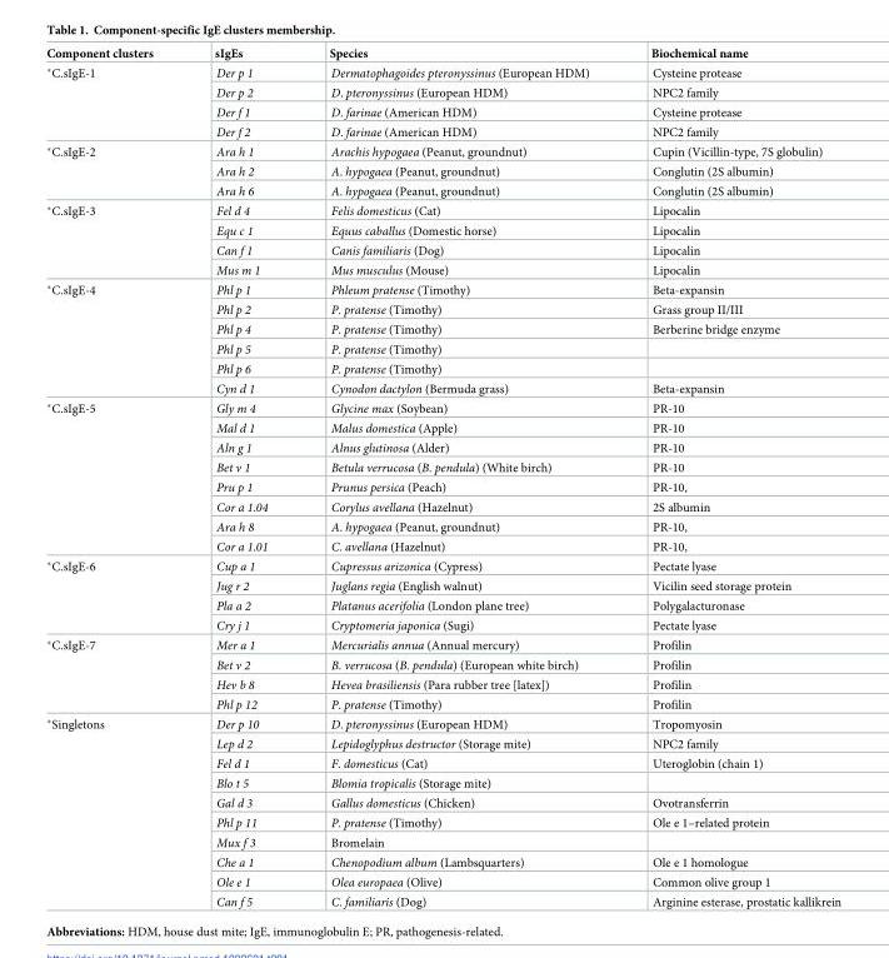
<table><thead><tr><td>Component clusters</td><td>sIgEs</td><td>Species</td><td>Biochemical name</td></tr></thead><tbody><tr><td rowspan="4">*C.sIgE-1</td><td>Der p 1</td><td>Dermatophagoides pteronyssinus (European HDM)</td><td>Cysteine protease</td></tr><tr><td>Der p 2</td><td>D. pteronyssinus (European HDM)</td><td>NPC2 family</td></tr><tr><td>Der f 1</td><td>D. farinae (American HDM)</td><td>Cysteine protease</td></tr><tr><td>Der f 2</td><td>D. farinae (American HDM)</td><td>NPC2 family</td></tr><tr><td rowspan="3">*C.sIgE-2</td><td>Ara h 1</td><td>Arachis hypogaea (Peanut, groundnut)</td><td>Cupin (Vicillin-type, 7S globulin)</td></tr><tr><td>Ara h 2</td><td>A. hypogaea (Peanut, groundnut)</td><td>Conglutin (2S albumin)</td></tr><tr><td>Ara h 6</td><td>A. hypogaea (Peanut, groundnut)</td><td>Conglutin (2S albumin)</td></tr><tr><td rowspan="4">*C.sIgE-3</td><td>Fel d 4</td><td>Felis domesticus (Cat)</td><td>Lipocalin</td></tr><tr><td>Equ c 1</td><td>Equus caballus (Domestic horse)</td><td>Lipocalin</td></tr><tr><td>Can f 1</td><td>Canis familiaris (Dog)</td><td>Lipocalin</td></tr><tr><td>Mus m 1</td><td>Mus musculus (Mouse)</td><td>Lipocalin</td></tr><tr><td rowspan="6">*C.sIgE-4</td><td>Phl p 1</td><td>Phleum pratense (Timothy)</td><td>Beta-expansin</td></tr><tr><td>Phl p 2</td><td>P. pratense (Timothy)</td><td>Grass group II/III</td></tr><tr><td>Phl p 4</td><td>P. pratense (Timothy)</td><td>Berberine bridge enzyme</td></tr><tr><td>Phl p 5</td><td>P. pratense (Timothy)</td><td></td></tr><tr><td>Phl p 6</td><td>P. pratense (Timothy)</td><td></td></tr><tr><td>Cyn d 1</td><td>Cynodon dactylon (Bermuda grass)</td><td>Beta-expansin</td></tr><tr><td rowspan="8">*C.sIgE-5</td><td>Gly m 4</td><td>Glycine max (Soybean)</td><td>PR-10</td></tr><tr><td>Mal d 1</td><td>Malus domestica (Apple)</td><td>PR-10</td></tr><tr><td>Aln g 1</td><td>Alnus glutinosa (Alder)</td><td>PR-10</td></tr><tr><td>Bet v 1</td><td>Betula verrucosa (B. pendula) (White birch)</td><td>PR-10</td></tr><tr><td>Pru p 1</td><td>Prunus persica (Peach)</td><td>PR-10,</td></tr><tr><td>Cor a 1.04</td><td>Corylus avellana (Hazelnut)</td><td>2S albumin</td></tr><tr><td>Ara h 8</td><td>A. hypogaea (Peanut, groundnut)</td><td>PR-10,</td></tr><tr><td>Cor a 1.01</td><td>C. avellana (Hazelnut)</td><td>PR-10,</td></tr><tr><td rowspan="4">*C.sIgE-6</td><td>Cup a 1</td><td>Cupressus arizonica (Cypress)</td><td>Pectate lyase</td></tr><tr><td>Jug r 2</td><td>Juglans regia (English walnut)</td><td>Vicilin seed storage protein</td></tr><tr><td>Pla a 2</td><td>Platanus acerifolia (London plane tree)</td><td>Polygalacturonase</td></tr><tr><td>Cry j 1</td><td>Cryptomeria japonica (Sugi)</td><td>Pectate lyase</td></tr><tr><td rowspan="4">*C.sIgE-7</td><td>Mer a 1</td><td>Mercurialis annua (Annual mercury)</td><td>Profilin</td></tr><tr><td>Bet v 2</td><td>B. verrucosa (B. pendula) (European white birch)</td><td>Profilin</td></tr><tr><td>Hev b 8</td><td>Hevea brasiliensis (Para rubber tree [latex])</td><td>Profilin</td></tr><tr><td>Phl p 12</td><td>P. pratense (Timothy)</td><td>Profilin</td></tr><tr><td rowspan="10">*Singletons</td><td>Der p 10</td><td>D. pteronyssinus (European HDM)</td><td>Tropomyosin</td></tr><tr><td>Lep d 2</td><td>Lepidoglyphus destructor (Storage mite)</td><td>NPC2 family</td></tr><tr><td>Fel d 1</td><td>F. domesticus (Cat)</td><td>Uteroglobin (chain 1)</td></tr><tr><td>Blo t 5</td><td>Blomia tropicalis (Storage mite)</td><td></td></tr><tr><td>Gal d 3</td><td>Gallus domesticus (Chicken)</td><td>Ovotransferrin</td></tr><tr><td>Phl p 11</td><td>P. pratense (Timothy)</td><td>Ole e 1–related protein</td></tr><tr><td>Mux f 3</td><td>Bromelain</td><td></td></tr><tr><td>Che a 1</td><td>Chenopodium album (Lambsquarters)</td><td>Ole e 1 homologue</td></tr><tr><td>Ole e 1</td><td>Olea europaea (Olive)</td><td>Common olive group 1</td></tr><tr><td>Can f 5</td><td>C. familiaris (Dog)</td><td>Arginine esterase, prostatic kallikrein</td></tr></tbody></table>